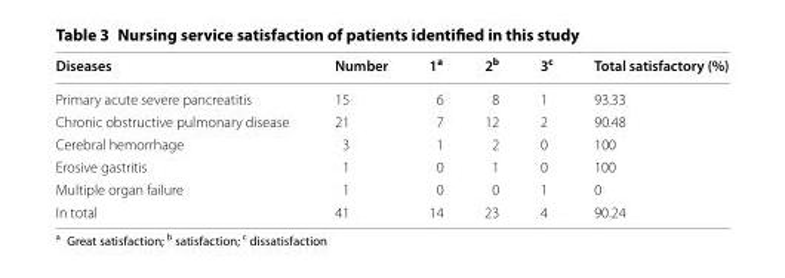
<table><thead><tr><td>Diseases</td><td>Number</td><td>1<sup>a</sup></td><td>2<sup>b</sup></td><td>3<sup>c</sup></td><td>Total satisfactory (%)</td></tr></thead><tbody><tr><td>Primary acute severe pancreatitis</td><td>15</td><td>6</td><td>8</td><td>1</td><td>93.33</td></tr><tr><td>Chronic obstructive pulmonary disease</td><td>21</td><td>7</td><td>12</td><td>2</td><td>90.48</td></tr><tr><td>Cerebral hemorrhage</td><td>3</td><td>1</td><td>2</td><td>0</td><td>100</td></tr><tr><td>Erosive gastritis</td><td>1</td><td>0</td><td>1</td><td>0</td><td>100</td></tr><tr><td>Multiple organ failure</td><td>1</td><td>0</td><td>0</td><td>1</td><td>0</td></tr><tr><td>In total</td><td>41</td><td>14</td><td>23</td><td>4</td><td>90.24</td></tr></tbody></table>